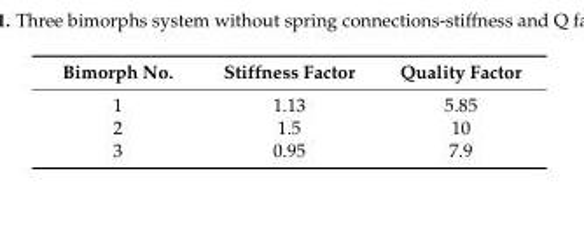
<table><thead><tr><td>Bimorph No.</td><td>Stiffness Factor</td><td>Quality Factor</td></tr></thead><tbody><tr><td>1</td><td>1.13</td><td>5.85</td></tr><tr><td>2</td><td>1.5</td><td>10</td></tr><tr><td>3</td><td>0.95</td><td>7.9</td></tr></tbody></table>